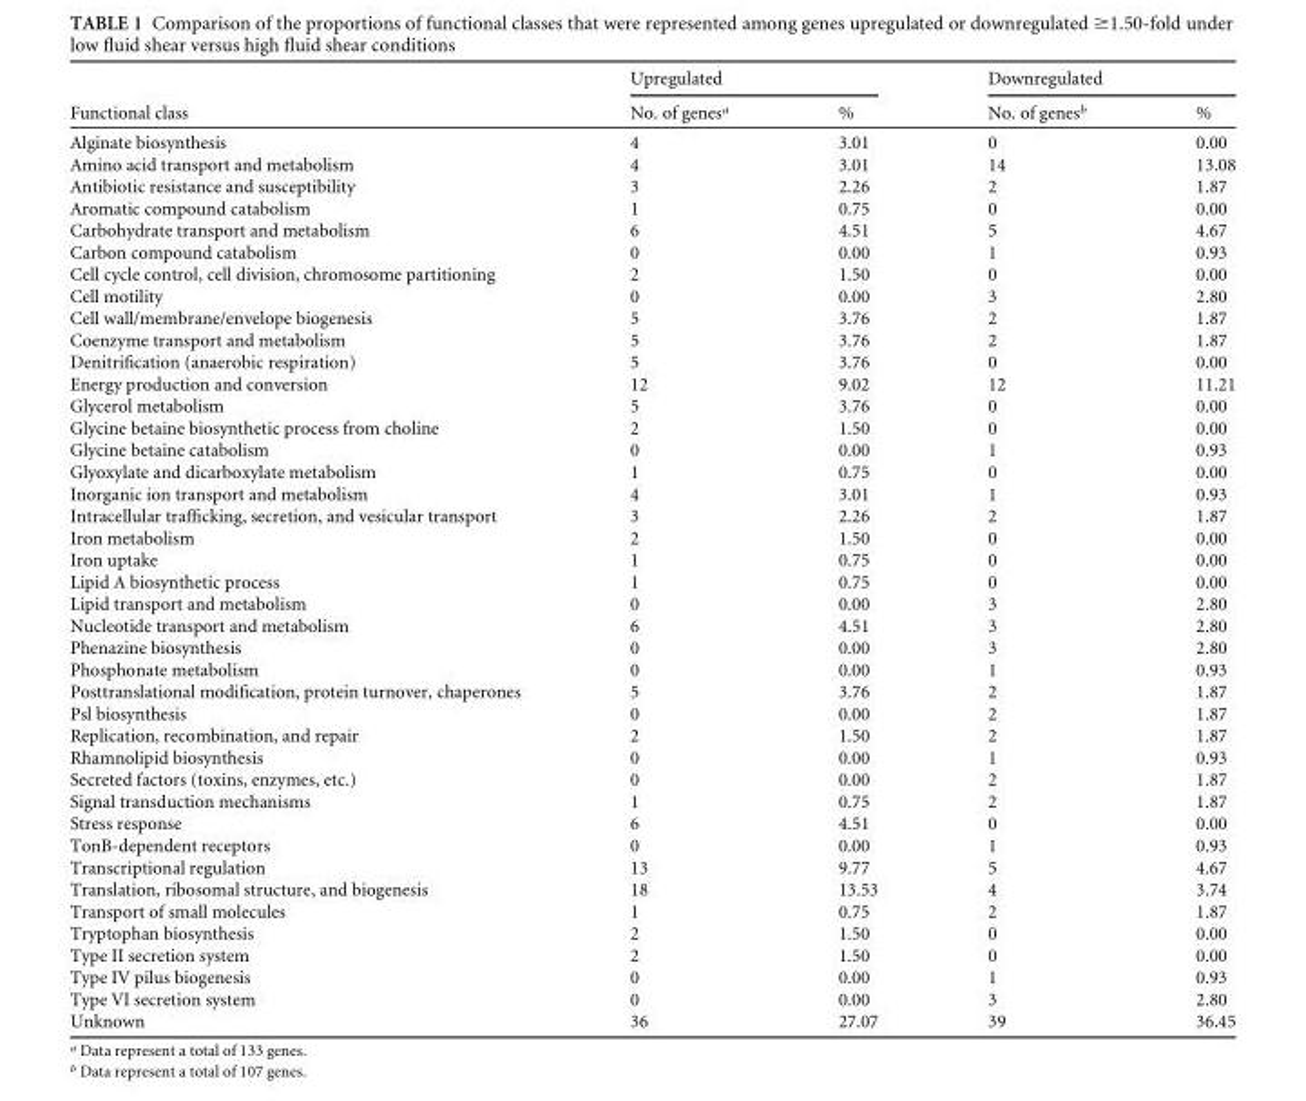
<table><thead><tr><td rowspan="2">Functional class</td><td colspan="2">Upregulated</td><td colspan="2">Downregulated</td></tr><tr><td>No. of genes<sup>a</sup></td><td>%</td><td>No. of genes<sup>b</sup></td><td>%</td></tr></thead><tbody><tr><td>Alginate biosynthesis</td><td>4</td><td>3.01</td><td>0</td><td>0.00</td></tr><tr><td>Amino acid transport and metabolism</td><td>4</td><td>3.01</td><td>14</td><td>13.08</td></tr><tr><td>Antibiotic resistance and susceptibility</td><td>3</td><td>2.26</td><td>2</td><td>1.87</td></tr><tr><td>Aromatic compound catabolism</td><td>1</td><td>0.75</td><td>0</td><td>0.00</td></tr><tr><td>Carbohydrate transport and metabolism</td><td>6</td><td>4.51</td><td>5</td><td>4.67</td></tr><tr><td>Carbon compound catabolism</td><td>0</td><td>0.00</td><td>1</td><td>0.93</td></tr><tr><td>Cell cycle control, cell division, chromosome partitioning</td><td>2</td><td>1.50</td><td>0</td><td>0.00</td></tr><tr><td>Cell motility</td><td>0</td><td>0.00</td><td>3</td><td>2.80</td></tr><tr><td>Cell wall/membrane/envelope biogenesis</td><td>5</td><td>3.76</td><td>2</td><td>1.87</td></tr><tr><td>Coenzyme transport and metabolism</td><td>5</td><td>3.76</td><td>2</td><td>1.87</td></tr><tr><td>Denitrification (anaerobic respiration)</td><td>5</td><td>3.76</td><td>0</td><td>0.00</td></tr><tr><td>Energy production and conversion</td><td>12</td><td>9.02</td><td>12</td><td>11.21</td></tr><tr><td>Glycerol metabolism</td><td>5</td><td>3.76</td><td>0</td><td>0.00</td></tr><tr><td>Glycine betaine biosynthetic process from choline</td><td>2</td><td>1.50</td><td>0</td><td>0.00</td></tr><tr><td>Glycine betaine catabolism</td><td>0</td><td>0.00</td><td>1</td><td>0.93</td></tr><tr><td>Glyoxylate and dicarboxylate metabolism</td><td>1</td><td>0.75</td><td>0</td><td>0.00</td></tr><tr><td>Inorganic ion transport and metabolism</td><td>4</td><td>3.01</td><td>1</td><td>0.93</td></tr><tr><td>Intracellular trafficking, secretion, and vesicular transport</td><td>3</td><td>2.26</td><td>2</td><td>1.87</td></tr><tr><td>Iron metabolism</td><td>2</td><td>1.50</td><td>0</td><td>0.00</td></tr><tr><td>Iron uptake</td><td>1</td><td>0.75</td><td>0</td><td>0.00</td></tr><tr><td>Lipid A biosynthetic process</td><td>1</td><td>0.75</td><td>0</td><td>0.00</td></tr><tr><td>Lipid transport and metabolism</td><td>0</td><td>0.00</td><td>3</td><td>2.80</td></tr><tr><td>Nucleotide transport and metabolism</td><td>6</td><td>4.51</td><td>3</td><td>2.80</td></tr><tr><td>Phenazine biosynthesis</td><td>0</td><td>0.00</td><td>3</td><td>2.80</td></tr><tr><td>Phosphonate metabolism</td><td>0</td><td>0.00</td><td>1</td><td>0.93</td></tr><tr><td>Posttranslational modification, protein turnover, chaperones</td><td>5</td><td>3.76</td><td>2</td><td>1.87</td></tr><tr><td>Psl biosynthesis</td><td>0</td><td>0.00</td><td>2</td><td>1.87</td></tr><tr><td>Replication, recombination, and repair</td><td>2</td><td>1.50</td><td>2</td><td>1.87</td></tr><tr><td>Rhamnolipid biosynthesis</td><td>0</td><td>0.00</td><td>1</td><td>0.93</td></tr><tr><td>Secreted factors (toxins, enzymes, etc.)</td><td>0</td><td>0.00</td><td>2</td><td>1.87</td></tr><tr><td>Signal transduction mechanisms</td><td>1</td><td>0.75</td><td>2</td><td>1.87</td></tr><tr><td>Stress response</td><td>6</td><td>4.51</td><td>0</td><td>0.00</td></tr><tr><td>TonB-dependent receptors</td><td>0</td><td>0.00</td><td>1</td><td>0.93</td></tr><tr><td>Transcriptional regulation</td><td>13</td><td>9.77</td><td>5</td><td>4.67</td></tr><tr><td>Translation, ribosomal structure, and biogenesis</td><td>18</td><td>13.53</td><td>4</td><td>3.74</td></tr><tr><td>Transport of small molecules</td><td>1</td><td>0.75</td><td>2</td><td>1.87</td></tr><tr><td>Tryptophan biosynthesis</td><td>2</td><td>1.50</td><td>0</td><td>0.00</td></tr><tr><td>Type II secretion system</td><td>2</td><td>1.50</td><td>0</td><td>0.00</td></tr><tr><td>Type IV pilus biogenesis</td><td>0</td><td>0.00</td><td>1</td><td>0.93</td></tr><tr><td>Type VI secretion system</td><td>0</td><td>0.00</td><td>3</td><td>2.80</td></tr><tr><td>Unknown</td><td>36</td><td>27.07</td><td>39</td><td>36.45</td></tr></tbody></table>